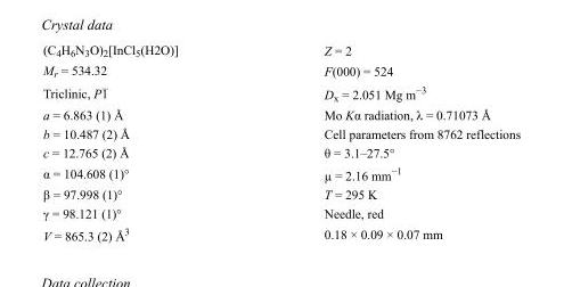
<table><tbody><tr><td>(C<sub>4</sub>H<sub>6</sub>N<sub>3</sub>O)<sub>2</sub>[InCl<sub>5</sub>(H2O)]</td><td>Z = 2</td></tr><tr><td>M<sub>r</sub> = 534.32</td><td>F(000) = 524</td></tr><tr><td>Triclinic, P1</td><td>D<sub>x</sub> = 2.051 Mg m<sup>−3</sup></td></tr><tr><td>a = 6.863 (1) Å</td><td>Mo Kα radiation, λ = 0.71073 Å</td></tr><tr><td>b = 10.487 (2) Å</td><td>Cell parameters from 8762 reflections</td></tr><tr><td>c = 12.765 (2) Å</td><td>θ = 3.1–27.5°</td></tr><tr><td>α = 104.608 (1)°</td><td>µ = 2.16 mm<sup>−1</sup></td></tr><tr><td>β = 97.998 (1)°</td><td>T = 295 K</td></tr><tr><td>γ = 98.121 (1)°</td><td>Needle, red</td></tr><tr><td>V = 865.3 (2) Å<sup>3</sup></td><td>0.18 × 0.09 × 0.07 mm</td></tr></tbody></table>